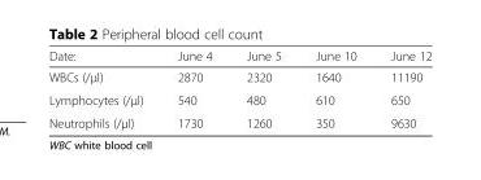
<table><thead><tr><td>Date:</td><td>June 4</td><td>June 5</td><td>June 10</td><td>June 12</td></tr></thead><tbody><tr><td>WBCs (/μl)</td><td>2870</td><td>2320</td><td>1640</td><td>11190</td></tr><tr><td>Lymphocytes (/μl)</td><td>540</td><td>480</td><td>610</td><td>650</td></tr><tr><td>Neutrophils (/μl)</td><td>1730</td><td>1260</td><td>350</td><td>9630</td></tr></tbody></table>